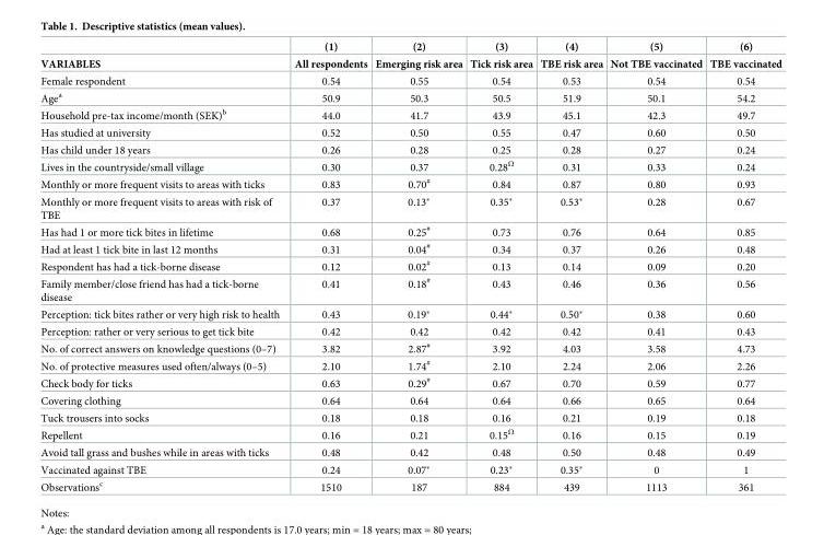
<table><thead><tr><td rowspan="2">VARIABLES</td><td rowspan="2">(1) All respondents</td><td rowspan="2">(2) Emerging risk area</td><td rowspan="2">(3) Tick risk area</td><td rowspan="2">(4) TBE risk area</td><td rowspan="2">(5) Not TBE vaccinated</td><td rowspan="2">(6) TBE vaccinated</td></tr><tr></tr></thead><tbody><tr><td>Female respondent</td><td>0.54</td><td>0.55</td><td>0.54</td><td>0.53</td><td>0.54</td><td>0.54</td></tr><tr><td>Age<sup>a</sup></td><td>50.9</td><td>50.3</td><td>50.5</td><td>51.9</td><td>50.1</td><td>54.2</td></tr><tr><td>Household pre-tax income/month (SEK)<sup>b</sup></td><td>44.0</td><td>41.7</td><td>43.9</td><td>45.1</td><td>42.3</td><td>49.7</td></tr><tr><td>Has studied at university</td><td>0.52</td><td>0.50</td><td>0.55</td><td>0.47</td><td>0.60</td><td>0.50</td></tr><tr><td>Has child under 18 years</td><td>0.26</td><td>0.28</td><td>0.25</td><td>0.28</td><td>0.27</td><td>0.24</td></tr><tr><td>Lives in the countryside/small village</td><td>0.30</td><td>0.37</td><td>0.28<sup>Ω</sup></td><td>0.31</td><td>0.33</td><td>0.24</td></tr><tr><td>Monthly or more frequent visits to areas with ticks</td><td>0.83</td><td>0.70<sup>#</sup></td><td>0.84</td><td>0.87</td><td>0.80</td><td>0.93</td></tr><tr><td>Monthly or more frequent visits to areas with risk of TBE</td><td>0.37</td><td>0.13*</td><td>0.35*</td><td>0.53*</td><td>0.28</td><td>0.67</td></tr><tr><td>Has had 1 or more tick bites in lifetime</td><td>0.68</td><td>0.25<sup>#</sup></td><td>0.73</td><td>0.76</td><td>0.64</td><td>0.85</td></tr><tr><td>Had at least 1 tick bite in last 12 months</td><td>0.31</td><td>0.04<sup>#</sup></td><td>0.34</td><td>0.37</td><td>0.26</td><td>0.48</td></tr><tr><td>Respondent has had a tick-borne disease</td><td>0.12</td><td>0.02<sup>#</sup></td><td>0.13</td><td>0.14</td><td>0.09</td><td>0.20</td></tr><tr><td>Family member/close friend has had a tick-borne disease</td><td>0.41</td><td>0.18<sup>#</sup></td><td>0.43</td><td>0.46</td><td>0.36</td><td>0.56</td></tr><tr><td>Perception: tick bites rather or very high risk to health</td><td>0.43</td><td>0.19*</td><td>0.44*</td><td>0.50*</td><td>0.38</td><td>0.60</td></tr><tr><td>Perception: rather or very serious to get tick bite</td><td>0.42</td><td>0.42</td><td>0.42</td><td>0.42</td><td>0.41</td><td>0.43</td></tr><tr><td>No. of correct answers on knowledge questions (0–7)</td><td>3.82</td><td>2.87<sup>#</sup></td><td>3.92</td><td>4.03</td><td>3.58</td><td>4.73</td></tr><tr><td>No. of protective measures used often/always (0–5)</td><td>2.10</td><td>1.74<sup>#</sup></td><td>2.10</td><td>2.24</td><td>2.06</td><td>2.26</td></tr><tr><td>Check body for ticks</td><td>0.63</td><td>0.29<sup>#</sup></td><td>0.67</td><td>0.70</td><td>0.59</td><td>0.77</td></tr><tr><td>Covering clothing</td><td>0.64</td><td>0.64</td><td>0.64</td><td>0.66</td><td>0.65</td><td>0.64</td></tr><tr><td>Tuck trousers into socks</td><td>0.18</td><td>0.18</td><td>0.16</td><td>0.21</td><td>0.19</td><td>0.18</td></tr><tr><td>Repellent</td><td>0.16</td><td>0.21</td><td>0.15<sup>Ω</sup></td><td>0.16</td><td>0.15</td><td>0.19</td></tr><tr><td>Avoid tall grass and bushes while in areas with ticks</td><td>0.48</td><td>0.42</td><td>0.48</td><td>0.50</td><td>0.48</td><td>0.49</td></tr><tr><td>Vaccinated against TBE</td><td>0.24</td><td>0.07*</td><td>0.23*</td><td>0.35*</td><td>0</td><td>1</td></tr><tr><td>Observations<sup>c</sup></td><td>1510</td><td>187</td><td>884</td><td>439</td><td>1113</td><td>361</td></tr></tbody></table>